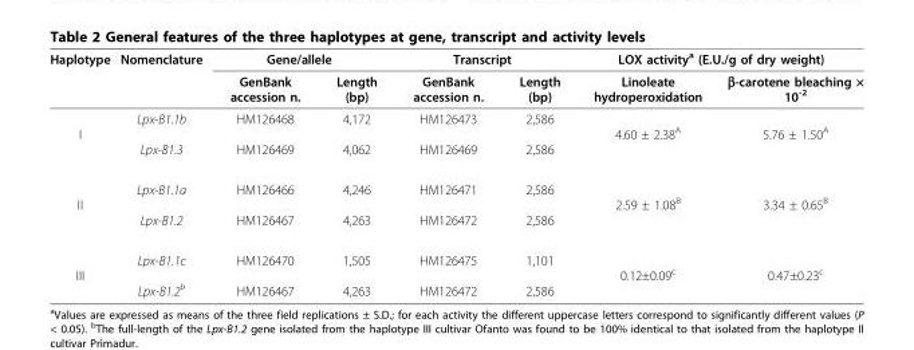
<table><thead><tr><td rowspan="2">Haplotype</td><td rowspan="2">Nomenclature</td><td colspan="2">Gene/allele</td><td colspan="2">Transcript</td><td colspan="2">LOX activity<sup>a</sup> (E.U./g of dry weight)</td></tr><tr><td>GenBank accession n.</td><td>Length (bp)</td><td>GenBank accession n.</td><td>Length (bp)</td><td>Linoleate hydroperoxidation</td><td>β-carotene bleaching × 10<sup>-2</sup></td></tr></thead><tbody><tr><td>I</td><td>Lpx-B1.1b Lpx-B1.3</td><td>HM126468 HM126469</td><td>4,172 4,062</td><td>HM126473 HM126469</td><td>2,586 2,586</td><td>4.60 ± 2.38<sup>A</sup></td><td>5.76 ± 1.50<sup>A</sup></td></tr><tr><td>II</td><td>Lpx-B1.1a Lpx-B1.2</td><td>HM126466 HM126467</td><td>4,246 4,263</td><td>HM126471 HM126472</td><td>2,586 2,586</td><td>2.59 ± 1.08<sup>B</sup></td><td>3.34 ± 0.65<sup>B</sup></td></tr><tr><td>III</td><td>Lpx-B1.1c Lpx-B1.2<sup>b</sup></td><td>HM126470 HM126467</td><td>1,505 4,263</td><td>HM126475 HM126472</td><td>1,101 2,586</td><td>0.12±0.09<sup>c</sup></td><td>0.47±0.23<sup>c</sup></td></tr></tbody></table>